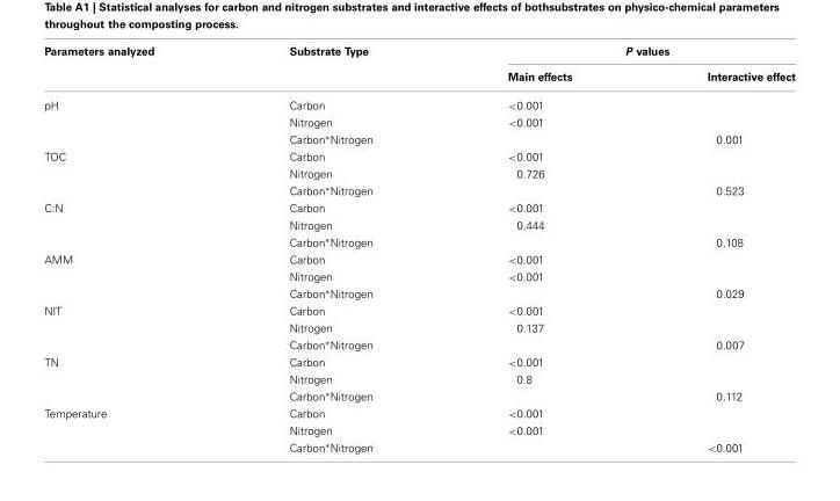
<table><thead><tr><td rowspan="2">Parameters analyzed</td><td rowspan="2">Substrate Type</td><td colspan="2">P values</td></tr><tr><td>Main effects</td><td>Interactive effect</td></tr></thead><tbody><tr><td rowspan="3">pH</td><td>Carbon</td><td>&lt;0.001</td><td></td></tr><tr><td>Nitrogen</td><td>&lt;0.001</td><td></td></tr><tr><td>Carbon∗Nitrogen</td><td></td><td>0.001</td></tr><tr><td rowspan="3">TOC</td><td>Carbon</td><td>&lt;0.001</td><td></td></tr><tr><td>Nitrogen</td><td>0.726</td><td></td></tr><tr><td>Carbon∗Nitrogen</td><td></td><td>0.523</td></tr><tr><td rowspan="3">C:N</td><td>Carbon</td><td>&lt;0.001</td><td></td></tr><tr><td>Nitrogen</td><td>0.444</td><td></td></tr><tr><td>Carbon∗Nitrogen</td><td></td><td>0.108</td></tr><tr><td rowspan="3">AMM</td><td>Carbon</td><td>&lt;0.001</td><td></td></tr><tr><td>Nitrogen</td><td>&lt;0.001</td><td></td></tr><tr><td>Carbon∗Nitrogen</td><td></td><td>0.029</td></tr><tr><td rowspan="3">NIT</td><td>Carbon</td><td>&lt;0.001</td><td></td></tr><tr><td>Nitrogen</td><td>0.137</td><td></td></tr><tr><td>Carbon∗Nitrogen</td><td></td><td>0.007</td></tr><tr><td rowspan="3">TN</td><td>Carbon</td><td>&lt;0.001</td><td></td></tr><tr><td>Nitrogen</td><td>0.8</td><td></td></tr><tr><td>Carbon∗Nitrogen</td><td></td><td>0.112</td></tr><tr><td rowspan="3">Temperature</td><td>Carbon</td><td>&lt;0.001</td><td></td></tr><tr><td>Nitrogen</td><td>&lt;0.001</td><td></td></tr><tr><td>Carbon∗Nitrogen</td><td></td><td>&lt;0.001</td></tr></tbody></table>